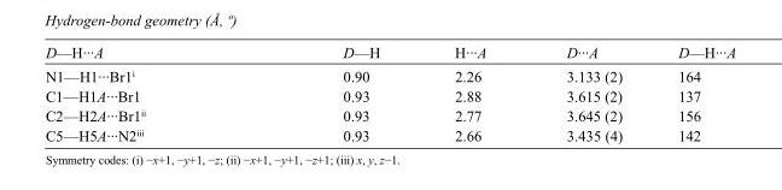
<table><tbody><tr><td>D—H···A</td><td>D—H</td><td>H···A</td><td>D···A</td><td>D—H···A</td></tr><tr><td>N1—H1···Br1<sup>i</sup></td><td>0.90</td><td>2.26</td><td>3.133 (2)</td><td>164</td></tr><tr><td>C1—H1A···Br1</td><td>0.93</td><td>2.88</td><td>3.615 (2)</td><td>137</td></tr><tr><td>C2—H2A···Br1<sup>ii</sup></td><td>0.93</td><td>2.77</td><td>3.645 (2)</td><td>156</td></tr><tr><td>C5—H5A···N2<sup>iii</sup></td><td>0.93</td><td>2.66</td><td>3.435 (4)</td><td>142</td></tr></tbody></table>